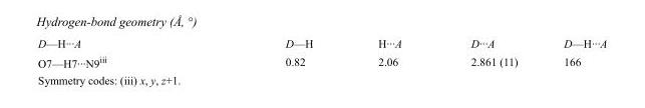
<table><tbody><tr><td>D—H···A</td><td>D—H</td><td>H···A</td><td>D···A</td><td>D—H···A</td></tr><tr><td>O7—H7···N9<sup>iii</sup></td><td>0.82</td><td>2.06</td><td>2.861 (11)</td><td>166</td></tr></tbody></table>